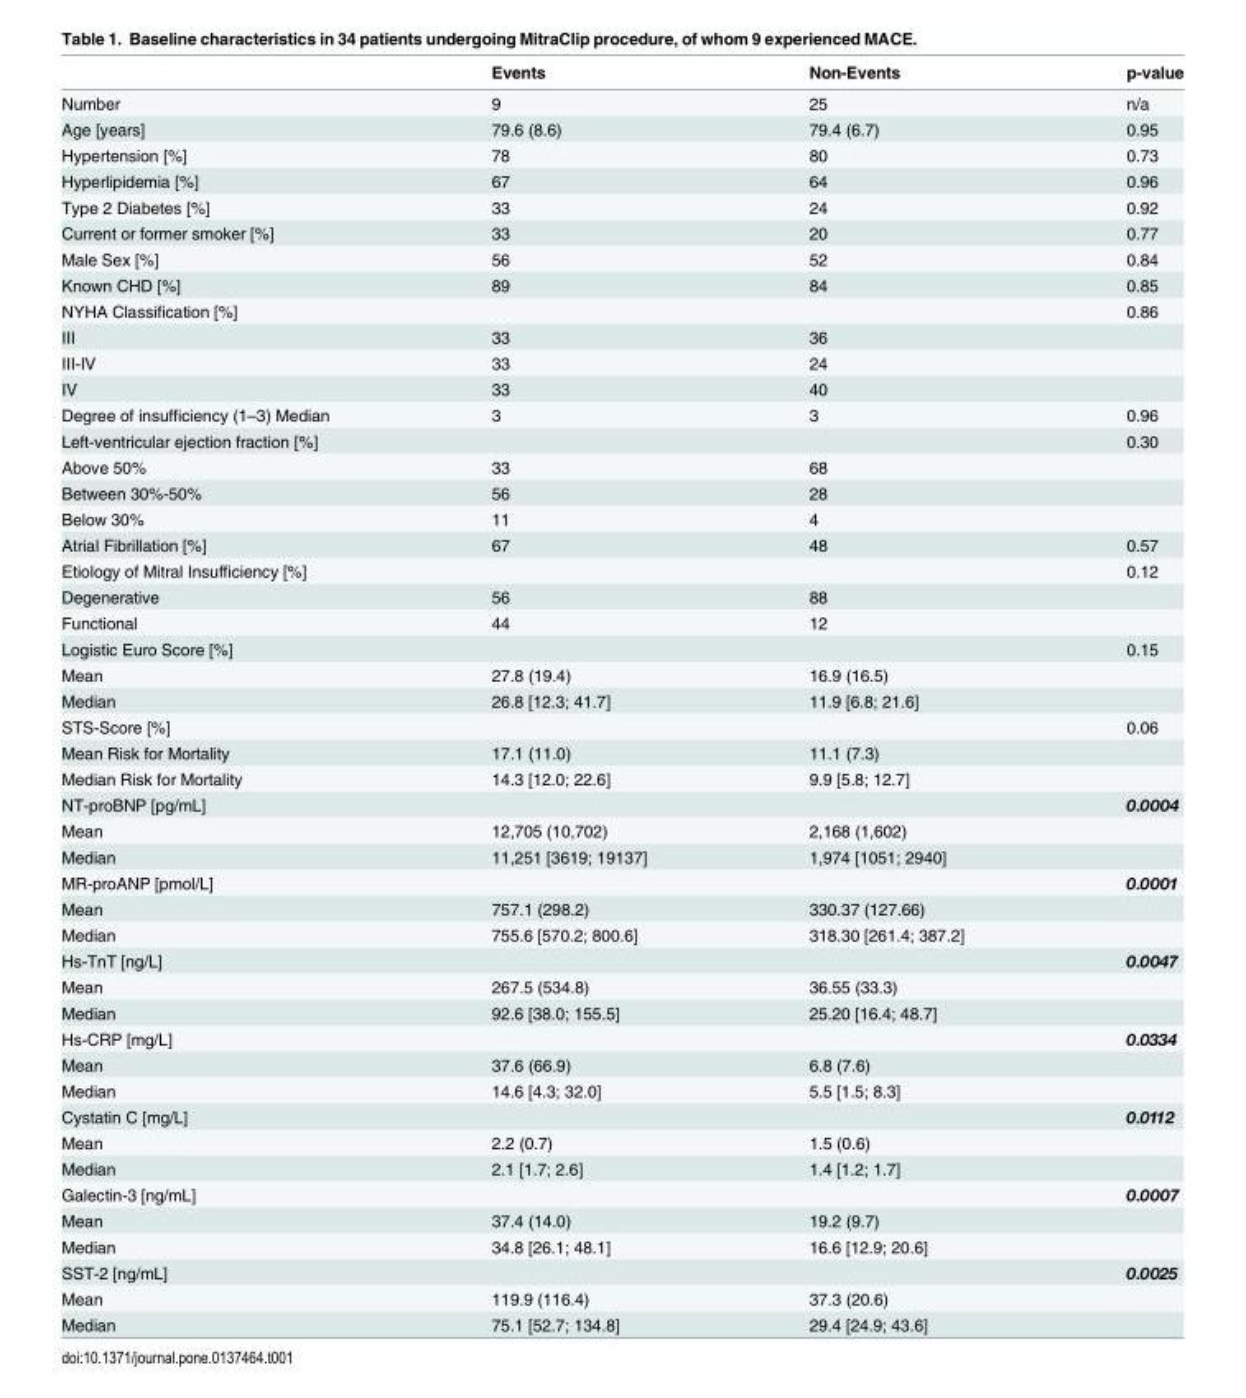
<table><thead><tr><td></td><td>Events</td><td>Non-Events</td><td>p-value</td></tr></thead><tbody><tr><td>Number</td><td>9</td><td>25</td><td>n/a</td></tr><tr><td>Age [years]</td><td>79.6 (8.6)</td><td>79.4 (6.7)</td><td>0.95</td></tr><tr><td>Hypertension [%]</td><td>78</td><td>80</td><td>0.73</td></tr><tr><td>Hyperlipidemia [%]</td><td>67</td><td>64</td><td>0.96</td></tr><tr><td>Type 2 Diabetes [%]</td><td>33</td><td>24</td><td>0.92</td></tr><tr><td>Current or former smoker [%]</td><td>33</td><td>20</td><td>0.77</td></tr><tr><td>Male Sex [%]</td><td>56</td><td>52</td><td>0.84</td></tr><tr><td>Known CHD [%]</td><td>89</td><td>84</td><td>0.85</td></tr><tr><td>NYHA Classification [%]</td><td></td><td></td><td>0.86</td></tr><tr><td>III</td><td>33</td><td>36</td><td></td></tr><tr><td>III-IV</td><td>33</td><td>24</td><td></td></tr><tr><td>IV</td><td>33</td><td>40</td><td></td></tr><tr><td>Degree of insufficiency (1–3) Median</td><td>3</td><td>3</td><td>0.96</td></tr><tr><td>Left-ventricular ejection fraction [%]</td><td></td><td></td><td>0.30</td></tr><tr><td>Above 50%</td><td>33</td><td>68</td><td></td></tr><tr><td>Between 30%-50%</td><td>56</td><td>28</td><td></td></tr><tr><td>Below 30%</td><td>11</td><td>4</td><td></td></tr><tr><td>Atrial Fibrillation [%]</td><td>67</td><td>48</td><td>0.57</td></tr><tr><td>Etiology of Mitral Insufficiency [%]</td><td></td><td></td><td>0.12</td></tr><tr><td>Degenerative</td><td>56</td><td>88</td><td></td></tr><tr><td>Functional</td><td>44</td><td>12</td><td></td></tr><tr><td>Logistic Euro Score [%]</td><td></td><td></td><td>0.15</td></tr><tr><td>Mean</td><td>27.8 (19.4)</td><td>16.9 (16.5)</td><td></td></tr><tr><td>Median</td><td>26.8 [12.3; 41.7]</td><td>11.9 [6.8; 21.6]</td><td></td></tr><tr><td>STS-Score [%]</td><td></td><td></td><td>0.06</td></tr><tr><td>Mean Risk for Mortality</td><td>17.1 (11.0)</td><td>11.1 (7.3)</td><td></td></tr><tr><td>Median Risk for Mortality</td><td>14.3 [12.0; 22.6]</td><td>9.9 [5.8; 12.7]</td><td></td></tr><tr><td>NT-proBNP [pg/mL]</td><td></td><td></td><td>0.0004</td></tr><tr><td>Mean</td><td>12,705 (10,702)</td><td>2,168 (1,602)</td><td></td></tr><tr><td>Median</td><td>11,251 [3619; 19137]</td><td>1,974 [1051; 2940]</td><td></td></tr><tr><td>MR-proANP [pmol/L]</td><td></td><td></td><td>0.0001</td></tr><tr><td>Mean</td><td>757.1 (298.2)</td><td>330.37 (127.66)</td><td></td></tr><tr><td>Median</td><td>755.6 [570.2; 800.6]</td><td>318.30 [261.4; 387.2]</td><td></td></tr><tr><td>Hs-TnT [ng/L]</td><td></td><td></td><td>0.0047</td></tr><tr><td>Mean</td><td>267.5 (534.8)</td><td>36.55 (33.3)</td><td></td></tr><tr><td>Median</td><td>92.6 [38.0; 155.5]</td><td>25.20 [16.4; 48.7]</td><td></td></tr><tr><td>Hs-CRP [mg/L]</td><td></td><td></td><td>0.0334</td></tr><tr><td>Mean</td><td>37.6 (66.9)</td><td>6.8 (7.6)</td><td></td></tr><tr><td>Median</td><td>14.6 [4.3; 32.0]</td><td>5.5 [1.5; 8.3]</td><td></td></tr><tr><td>Cystatin C [mg/L]</td><td></td><td></td><td>0.0112</td></tr><tr><td>Mean</td><td>2.2 (0.7)</td><td>1.5 (0.6)</td><td></td></tr><tr><td>Median</td><td>2.1 [1.7; 2.6]</td><td>1.4 [1.2; 1.7]</td><td></td></tr><tr><td>Galectin-3 [ng/mL]</td><td></td><td></td><td>0.0007</td></tr><tr><td>Mean</td><td>37.4 (14.0)</td><td>19.2 (9.7)</td><td></td></tr><tr><td>Median</td><td>34.8 [26.1; 48.1]</td><td>16.6 [12.9; 20.6]</td><td></td></tr><tr><td>SST-2 [ng/mL]</td><td></td><td></td><td>0.0025</td></tr><tr><td>Mean</td><td>119.9 (116.4)</td><td>37.3 (20.6)</td><td></td></tr><tr><td>Median</td><td>75.1 [52.7; 134.8]</td><td>29.4 [24.9; 43.6]</td><td></td></tr></tbody></table>